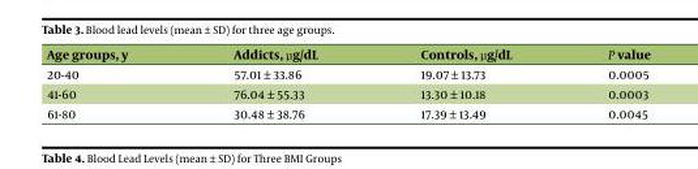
<table><thead><tr><td>Age groups, y</td><td>Addicts, µg/dL</td><td>Controls, µg/dL</td><td>P value</td></tr></thead><tbody><tr><td>20-40</td><td>57.01 ± 33.86</td><td>19.07 ± 13.73</td><td>0.0005</td></tr><tr><td>41-60</td><td>76.04 ± 55.33</td><td>13.30 ± 10.18</td><td>0.0003</td></tr><tr><td>61-80</td><td>30.48 ± 38.76</td><td>17.39 ± 13.49</td><td>0.0045</td></tr></tbody></table>